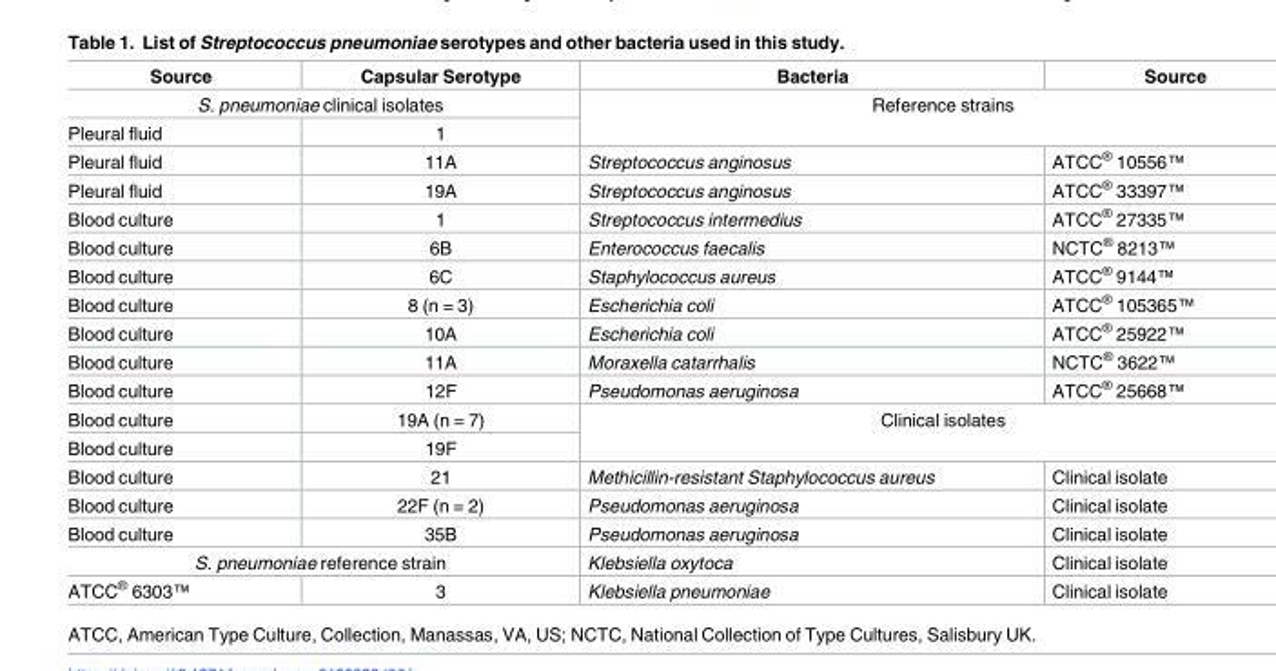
<table><thead><tr><td>Source</td><td>Capsular Serotype</td><td>Bacteria</td><td>Source</td></tr></thead><tbody><tr><td colspan="2">S. pneumoniae clinical isolates</td><td rowspan="2" colspan="2">Reference strains</td></tr><tr><td>Pleural fluid</td><td>1</td></tr><tr><td>Pleural fluid</td><td>11A</td><td>Streptococcus anginosus</td><td>ATCC<sup>®</sup> 10556<sup>™</sup></td></tr><tr><td>Pleural fluid</td><td>19A</td><td>Streptococcus anginosus</td><td>ATCC<sup>®</sup> 33397<sup>™</sup></td></tr><tr><td>Blood culture</td><td>1</td><td>Streptococcus intermedius</td><td>ATCC<sup>®</sup> 27335<sup>™</sup></td></tr><tr><td>Blood culture</td><td>6B</td><td>Enterococcus faecalis</td><td>NCTC<sup>®</sup> 8213<sup>™</sup></td></tr><tr><td>Blood culture</td><td>6C</td><td>Staphylococcus aureus</td><td>ATCC<sup>®</sup> 9144<sup>™</sup></td></tr><tr><td>Blood culture</td><td>8 (n = 3)</td><td>Escherichia coli</td><td>ATCC<sup>®</sup> 105365<sup>™</sup></td></tr><tr><td>Blood culture</td><td>10A</td><td>Escherichia coli</td><td>ATCC<sup>®</sup> 25922<sup>™</sup></td></tr><tr><td>Blood culture</td><td>11A</td><td>Moraxella catarrhalis</td><td>NCTC<sup>®</sup> 3622<sup>™</sup></td></tr><tr><td>Blood culture</td><td>12F</td><td>Pseudomonas aeruginosa</td><td>ATCC<sup>®</sup> 25668<sup>™</sup></td></tr><tr><td>Blood culture</td><td>19A (n = 7)</td><td rowspan="2" colspan="2">Clinical isolates</td></tr><tr><td>Blood culture</td><td>19F</td></tr><tr><td>Blood culture</td><td>21</td><td>Methicillin-resistant Staphylococcus aureus</td><td>Clinical isolate</td></tr><tr><td>Blood culture</td><td>22F (n = 2)</td><td>Pseudomonas aeruginosa</td><td>Clinical isolate</td></tr><tr><td>Blood culture</td><td>35B</td><td>Pseudomonas aeruginosa</td><td>Clinical isolate</td></tr><tr><td colspan="2">S. pneumoniae reference strain</td><td>Klebsiella oxytoca</td><td>Clinical isolate</td></tr><tr><td>ATCC<sup>®</sup> 6303<sup>™</sup></td><td>3</td><td>Klebsiella pneumoniae</td><td>Clinical isolate</td></tr></tbody></table>